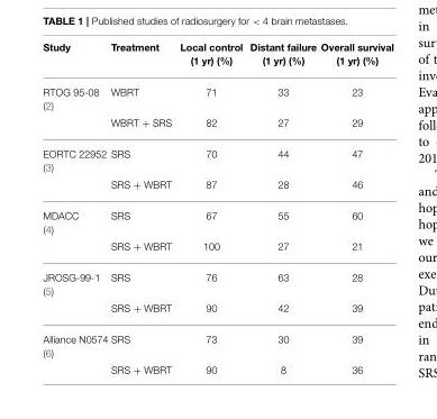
<table><thead><tr><td>Study</td><td>Treatment</td><td>Local control (1 yr) (%)</td><td>Distant failure (1 yr) (%)</td><td>Overall survival (1 yr) (%)</td></tr></thead><tbody><tr><td rowspan="2">RTOG 95-08 (2)</td><td>WBRT</td><td>71</td><td>33</td><td>23</td></tr><tr><td>WBRT + SRS</td><td>82</td><td>27</td><td>29</td></tr><tr><td rowspan="2">EORTC 22952 (3)</td><td>SRS</td><td>70</td><td>44</td><td>47</td></tr><tr><td>SRS + WBRT</td><td>87</td><td>28</td><td>46</td></tr><tr><td rowspan="2">MDACC (4)</td><td>SRS</td><td>67</td><td>55</td><td>60</td></tr><tr><td>SRS + WBRT</td><td>100</td><td>27</td><td>21</td></tr><tr><td rowspan="2">JROSG-99-1 (5)</td><td>SRS</td><td>76</td><td>63</td><td>28</td></tr><tr><td>SRS + WBRT</td><td>90</td><td>42</td><td>39</td></tr><tr><td rowspan="2">Alliance N0574 (6)</td><td>SRS</td><td>73</td><td>30</td><td>39</td></tr><tr><td>SRS + WBRT</td><td>90</td><td>8</td><td>36</td></tr></tbody></table>